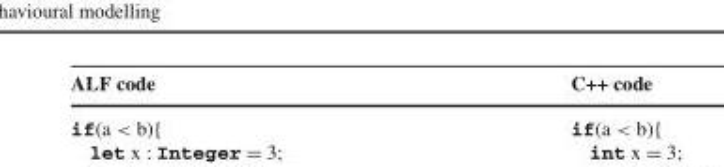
<table><thead><tr><td>ALF code</td><td>C++ code</td></tr></thead><tbody></tbody></table>